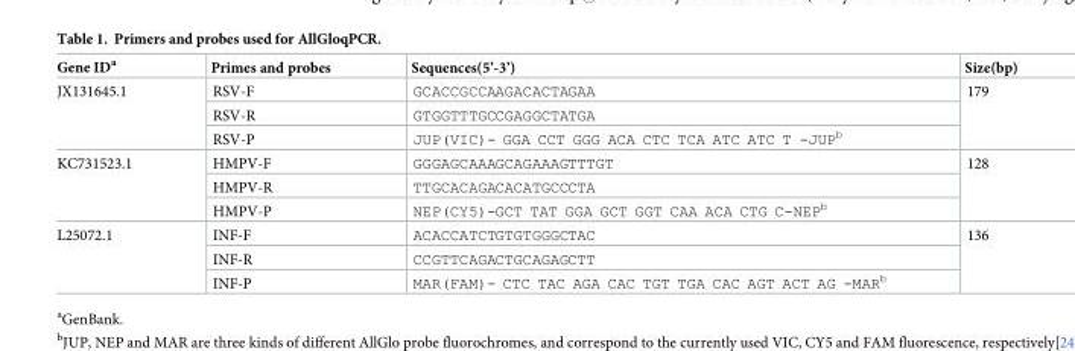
<table><thead><tr><td>Gene ID<sup>a</sup></td><td>Primes and probes</td><td>Sequences(5’-3’)</td><td>Size(bp)</td></tr></thead><tbody><tr><td rowspan="3">JX131645.1</td><td>RSV-F</td><td>GCACCGCCAAGACACTAGAA</td><td rowspan="3">179</td></tr><tr><td>RSV-R</td><td>GTGGTTTGCCGAGGCTATGA</td></tr><tr><td>RSV-P</td><td>JUP(VIC)- GGA CCT GGG ACA CTC TCA ATC ATC T -JUP<sup>b</sup></td></tr><tr><td rowspan="3">KC731523.1</td><td>HMPV-F</td><td>GGGAGCAAAGCAGAAAGTTTGT</td><td rowspan="3">128</td></tr><tr><td>HMPV-R</td><td>TTGCACAGACACATGCCCTA</td></tr><tr><td>HMPV-P</td><td>NEP(CY5)-GCT TAT GGA GCT GGT CAA ACA CTG C-NEP<sup>b</sup></td></tr><tr><td rowspan="3">L25072.1</td><td>INF-F</td><td>ACACCATCTGTGTGGGCTAC</td><td rowspan="3">136</td></tr><tr><td>INF-R</td><td>CCGTTCAGACTGCAGAGCTT</td></tr><tr><td>INF-P</td><td>MAR(FAM)- CTC TAC AGA CAC TGT TGA CAC AGT ACT AG -MAR<sup>b</sup></td></tr></tbody></table>